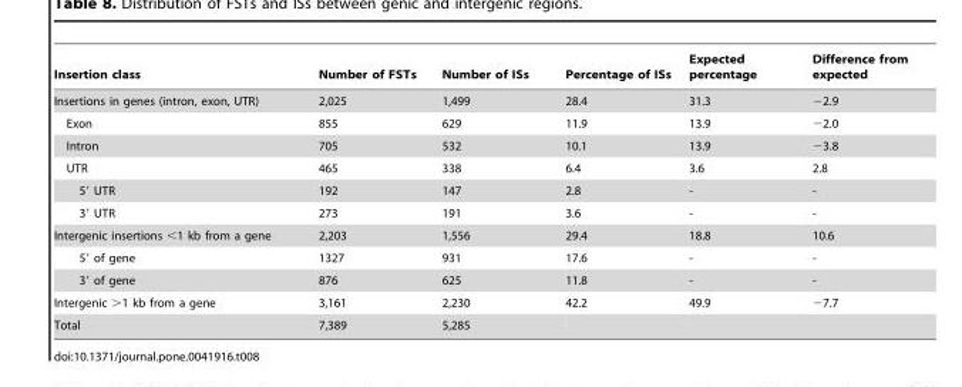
<table><thead><tr><td>Insertion class</td><td>Number of FSTs</td><td>Number of ISs</td><td>Percentage of ISs</td><td>Expected percentage</td><td>Difference from expected</td></tr></thead><tbody><tr><td>Insertions in genes (intron, exon, UTR)</td><td>2,025</td><td>1,499</td><td>28.4</td><td>31.3</td><td>−2.9</td></tr><tr><td>Exon</td><td>855</td><td>629</td><td>11.9</td><td>13.9</td><td>−2.0</td></tr><tr><td>Intron</td><td>705</td><td>532</td><td>10.1</td><td>13.9</td><td>−3.8</td></tr><tr><td>UTR</td><td>465</td><td>338</td><td>6.4</td><td>3.6</td><td>2.8</td></tr><tr><td>5′ UTR</td><td>192</td><td>147</td><td>2.8</td><td>-</td><td>-</td></tr><tr><td>3′ UTR</td><td>273</td><td>191</td><td>3.6</td><td>-</td><td>-</td></tr><tr><td>Intergenic insertions &lt;1 kb from a gene</td><td>2,203</td><td>1,556</td><td>29.4</td><td>18.8</td><td>10.6</td></tr><tr><td>5′ of gene</td><td>1327</td><td>931</td><td>17.6</td><td>-</td><td>-</td></tr><tr><td>3′ of gene</td><td>876</td><td>625</td><td>11.8</td><td>-</td><td>-</td></tr><tr><td>Intergenic &gt;1 kb from a gene</td><td>3,161</td><td>2,230</td><td>42.2</td><td>49.9</td><td>−7.7</td></tr><tr><td>Total</td><td>7,389</td><td>5,285</td><td></td><td></td><td></td></tr></tbody></table>